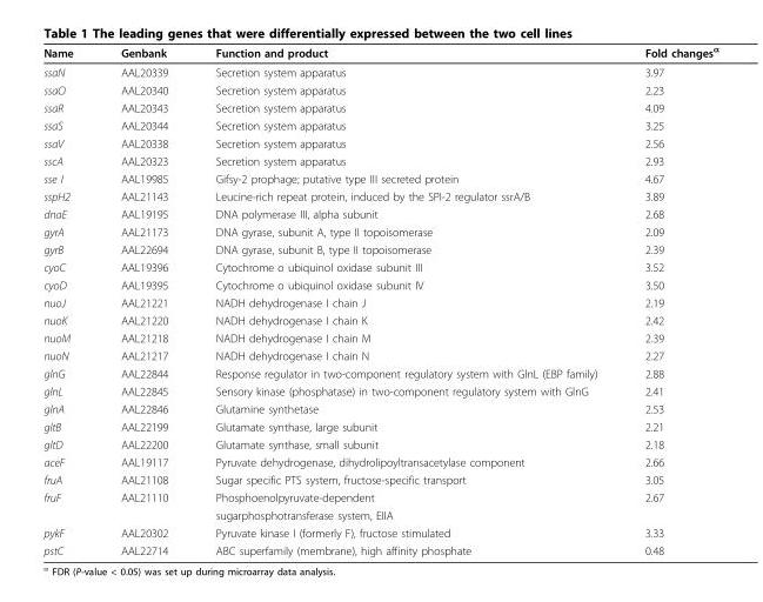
<table><thead><tr><td>Name</td><td>Genbank</td><td>Function and product</td><td>Fold changes<sup>α</sup></td></tr></thead><tbody><tr><td>ssaN</td><td>AAL20339</td><td>Secretion system apparatus</td><td>3.97</td></tr><tr><td>ssaO</td><td>AAL20340</td><td>Secretion system apparatus</td><td>2.23</td></tr><tr><td>ssaR</td><td>AAL20343</td><td>Secretion system apparatus</td><td>4.09</td></tr><tr><td>ssaS</td><td>AAL20344</td><td>Secretion system apparatus</td><td>3.25</td></tr><tr><td>ssaV</td><td>AAL20338</td><td>Secretion system apparatus</td><td>2.56</td></tr><tr><td>sscA</td><td>AAL20323</td><td>Secretion system apparatus</td><td>2.93</td></tr><tr><td>sse I</td><td>AAL19985</td><td>Gifsy-2 prophage; putative type III secreted protein</td><td>4.67</td></tr><tr><td>sspH2</td><td>AAL21143</td><td>Leucine-rich repeat protein, induced by the SPI-2 regulator ssrA/B</td><td>3.89</td></tr><tr><td>dnaE</td><td>AAL19195</td><td>DNA polymerase III, alpha subunit</td><td>2.68</td></tr><tr><td>gyrA</td><td>AAL21173</td><td>DNA gyrase, subunit A, type II topoisomerase</td><td>2.09</td></tr><tr><td>gyrB</td><td>AAL22694</td><td>DNA gyrase, subunit B, type II topoisomerase</td><td>2.39</td></tr><tr><td>cyoC</td><td>AAL19396</td><td>Cytochrome o ubiquinol oxidase subunit III</td><td>3.52</td></tr><tr><td>cyoD</td><td>AAL19395</td><td>Cytochrome o ubiquinol oxidase subunit IV</td><td>3.50</td></tr><tr><td>nuoJ</td><td>AAL21221</td><td>NADH dehydrogenase I chain J</td><td>2.19</td></tr><tr><td>nuoK</td><td>AAL21220</td><td>NADH dehydrogenase I chain K</td><td>2.42</td></tr><tr><td>nuoM</td><td>AAL21218</td><td>NADH dehydrogenase I chain M</td><td>2.39</td></tr><tr><td>nuoN</td><td>AAL21217</td><td>NADH dehydrogenase I chain N</td><td>2.27</td></tr><tr><td>glnG</td><td>AAL22844</td><td>Response regulator in two-component regulatory system with GlnL (EBP family)</td><td>2.88</td></tr><tr><td>glnL</td><td>AAL22845</td><td>Sensory kinase (phosphatase) in two-component regulatory system with GlnG</td><td>2.41</td></tr><tr><td>glnA</td><td>AAL22846</td><td>Glutamine synthetase</td><td>2.53</td></tr><tr><td>gltB</td><td>AAL22199</td><td>Glutamate synthase, large subunit</td><td>2.21</td></tr><tr><td>gltD</td><td>AAL22200</td><td>Glutamate synthase, small subunit</td><td>2.18</td></tr><tr><td>aceF</td><td>AAL19117</td><td>Pyruvate dehydrogenase, dihydrolipoyltransacetylase component</td><td>2.66</td></tr><tr><td>fruA</td><td>AAL21108</td><td>Sugar specific PTS system, fructose-specific transport</td><td>3.05</td></tr><tr><td rowspan="2">fruF</td><td>AAL21110</td><td>Phosphoenolpyruvate-dependent</td><td>2.67</td></tr><tr><td></td><td>sugarphosphotransferase system, EIIA</td><td></td></tr><tr><td>pykF</td><td>AAL20302</td><td>Pyruvate kinase I (formerly F), fructose stimulated</td><td>3.33</td></tr><tr><td>pstC</td><td>AAL22714</td><td>ABC superfamily (membrane), high affinity phosphate</td><td>0.48</td></tr></tbody></table>